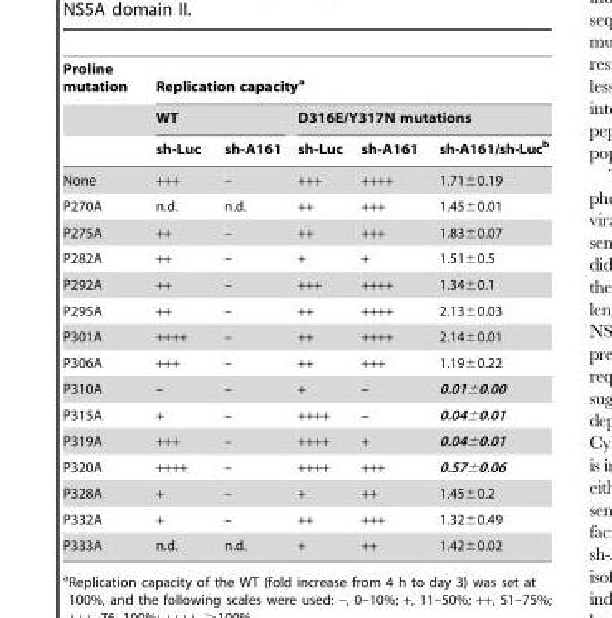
<table><thead><tr><td rowspan="3">Proline mutation</td><td colspan="5">Replication capacity<sup>a</sup></td></tr><tr><td colspan="2">WT</td><td colspan="3">D316E/Y317N mutations</td></tr><tr><td>sh-Luc</td><td>sh-A161</td><td>sh-Luc</td><td>sh-A161</td><td>sh-A161/sh-Luc<sup>b</sup></td></tr></thead><tbody><tr><td>None</td><td>+++</td><td>–</td><td>+++</td><td>++++</td><td>1.71±0.19</td></tr><tr><td>P270A</td><td>n.d.</td><td>n.d.</td><td>++</td><td>+++</td><td>1.45±0.01</td></tr><tr><td>P275A</td><td>++</td><td>–</td><td>++</td><td>+++</td><td>1.83±0.07</td></tr><tr><td>P282A</td><td>++</td><td>–</td><td>+</td><td>+</td><td>1.51±0.5</td></tr><tr><td>P292A</td><td>++</td><td>–</td><td>+++</td><td>++++</td><td>1.34±0.1</td></tr><tr><td>P295A</td><td>++</td><td>–</td><td>++</td><td>++++</td><td>2.13±0.03</td></tr><tr><td>P301A</td><td>++++</td><td>–</td><td>++</td><td>++++</td><td>2.14±0.01</td></tr><tr><td>P306A</td><td>+++</td><td>–</td><td>++</td><td>+++</td><td>1.19±0.22</td></tr><tr><td>P310A</td><td>–</td><td>–</td><td>+</td><td>–</td><td>0.01±0.00</td></tr><tr><td>P315A</td><td>+</td><td>–</td><td>++++</td><td>–</td><td>0.04±0.01</td></tr><tr><td>P319A</td><td>+++</td><td>–</td><td>++++</td><td>+</td><td>0.04±0.01</td></tr><tr><td>P320A</td><td>++++</td><td>–</td><td>++++</td><td>+++</td><td>0.57±0.06</td></tr><tr><td>P328A</td><td>+</td><td>–</td><td>+</td><td>++</td><td>1.45±0.2</td></tr><tr><td>P332A</td><td>+</td><td>–</td><td>++</td><td>+++</td><td>1.32±0.49</td></tr><tr><td>P333A</td><td>n.d.</td><td>n.d.</td><td>+</td><td>++</td><td>1.42±0.02</td></tr></tbody></table>